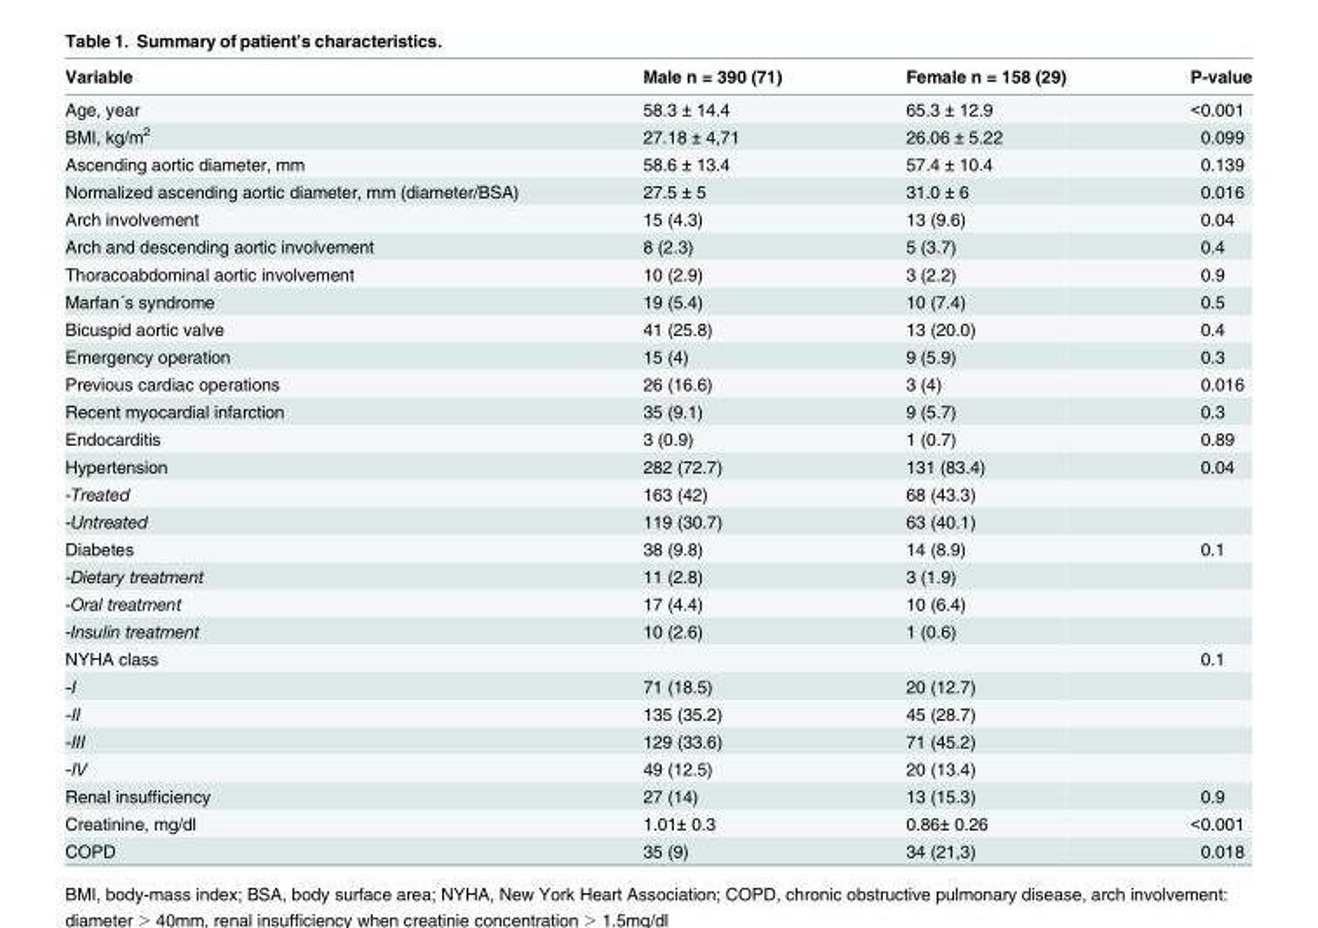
<table><thead><tr><td>Variable</td><td>Male n = 390 (71)</td><td>Female n = 158 (29)</td><td>P-value</td></tr></thead><tbody><tr><td>Age, year</td><td>58.3 ± 14.4</td><td>65.3 ± 12.9</td><td>&lt;0.001</td></tr><tr><td>BMI, kg/m<sup>2</sup></td><td>27.18 ± 4,71</td><td>26.06 ± 5.22</td><td>0.099</td></tr><tr><td>Ascending aortic diameter, mm</td><td>58.6 ± 13.4</td><td>57.4 ± 10.4</td><td>0.139</td></tr><tr><td>Normalized ascending aortic diameter, mm (diameter/BSA)</td><td>27.5 ± 5</td><td>31.0 ± 6</td><td>0.016</td></tr><tr><td>Arch involvement</td><td>15 (4.3)</td><td>13 (9.6)</td><td>0.04</td></tr><tr><td>Arch and descending aortic involvement</td><td>8 (2.3)</td><td>5 (3.7)</td><td>0.4</td></tr><tr><td>Thoracoabdominal aortic involvement</td><td>10 (2.9)</td><td>3 (2.2)</td><td>0.9</td></tr><tr><td>Marfan´s syndrome</td><td>19 (5.4)</td><td>10 (7.4)</td><td>0.5</td></tr><tr><td>Bicuspid aortic valve</td><td>41 (25.8)</td><td>13 (20.0)</td><td>0.4</td></tr><tr><td>Emergency operation</td><td>15 (4)</td><td>9 (5.9)</td><td>0.3</td></tr><tr><td>Previous cardiac operations</td><td>26 (16.6)</td><td>3 (4)</td><td>0.016</td></tr><tr><td>Recent myocardial infarction</td><td>35 (9.1)</td><td>9 (5.7)</td><td>0.3</td></tr><tr><td>Endocarditis</td><td>3 (0.9)</td><td>1 (0.7)</td><td>0.89</td></tr><tr><td>Hypertension</td><td>282 (72.7)</td><td>131 (83.4)</td><td>0.04</td></tr><tr><td>-Treated</td><td>163 (42)</td><td>68 (43.3)</td><td></td></tr><tr><td>-Untreated</td><td>119 (30.7)</td><td>63 (40.1)</td><td></td></tr><tr><td>Diabetes</td><td>38 (9.8)</td><td>14 (8.9)</td><td>0.1</td></tr><tr><td>-Dietary treatment</td><td>11 (2.8)</td><td>3 (1.9)</td><td></td></tr><tr><td>-Oral treatment</td><td>17 (4.4)</td><td>10 (6.4)</td><td></td></tr><tr><td>-Insulin treatment</td><td>10 (2.6)</td><td>1 (0.6)</td><td></td></tr><tr><td>NYHA class</td><td></td><td></td><td>0.1</td></tr><tr><td>-I</td><td>71 (18.5)</td><td>20 (12.7)</td><td></td></tr><tr><td>-II</td><td>135 (35.2)</td><td>45 (28.7)</td><td></td></tr><tr><td>-III</td><td>129 (33.6)</td><td>71 (45.2)</td><td></td></tr><tr><td>-IV</td><td>49 (12.5)</td><td>20 (13.4)</td><td></td></tr><tr><td>Renal insufficiency</td><td>27 (14)</td><td>13 (15.3)</td><td>0.9</td></tr><tr><td>Creatinine, mg/dl</td><td>1.01± 0.3</td><td>0.86± 0.26</td><td>&lt;0.001</td></tr><tr><td>COPD</td><td>35 (9)</td><td>34 (21,3)</td><td>0.018</td></tr></tbody></table>